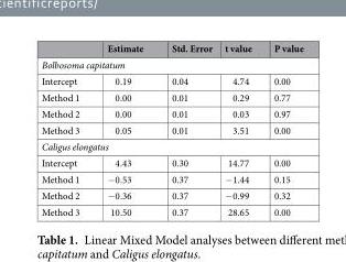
<table><thead><tr><td></td><td>Estimate</td><td>Std. Error</td><td>t value</td><td>P value</td></tr></thead><tbody><tr><td colspan="5">Bolbosoma capitatum</td></tr><tr><td>Intercept</td><td>0.19</td><td>0.04</td><td>4.74</td><td>0.00</td></tr><tr><td>Method 1</td><td>0.00</td><td>0.01</td><td>0.29</td><td>0.77</td></tr><tr><td>Method 2</td><td>0.00</td><td>0.01</td><td>0.03</td><td>0.97</td></tr><tr><td>Method 3</td><td>0.05</td><td>0.01</td><td>3.51</td><td>0.00</td></tr><tr><td colspan="5">Caligus elongatus</td></tr><tr><td>Intercept</td><td>4.43</td><td>0.30</td><td>14.77</td><td>0.00</td></tr><tr><td>Method 1</td><td>−0.53</td><td>0.37</td><td>−1.44</td><td>0.15</td></tr><tr><td>Method 2</td><td>−0.36</td><td>0.37</td><td>−0.99</td><td>0.32</td></tr><tr><td>Method 3</td><td>10.50</td><td>0.37</td><td>28.65</td><td>0.00</td></tr></tbody></table>